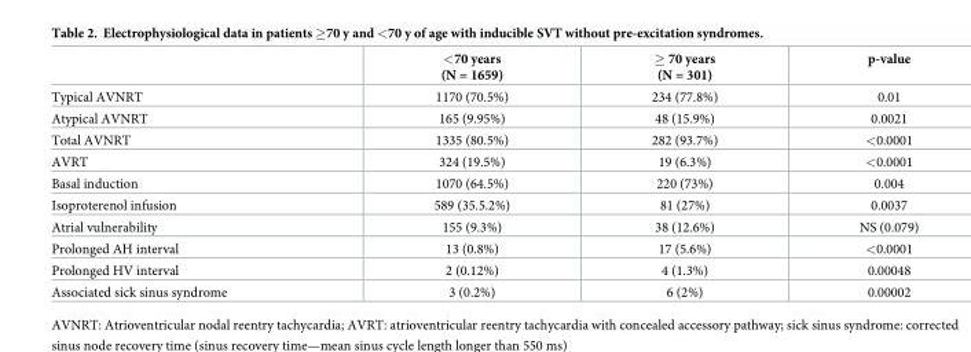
<table><thead><tr><td></td><td>&lt;70 years (N = 1659)</td><td>≥ 70 years (N = 301)</td><td>p-value</td></tr></thead><tbody><tr><td>Typical AVNRT</td><td>1170 (70.5%)</td><td>234 (77.8%)</td><td>0.01</td></tr><tr><td>Atypical AVNRT</td><td>165 (9.95%)</td><td>48 (15.9%)</td><td>0.0021</td></tr><tr><td>Total AVNRT</td><td>1335 (80.5%)</td><td>282 (93.7%)</td><td>&lt;0.0001</td></tr><tr><td>AVRT</td><td>324 (19.5%)</td><td>19 (6.3%)</td><td>&lt;0.0001</td></tr><tr><td>Basal induction</td><td>1070 (64.5%)</td><td>220 (73%)</td><td>0.004</td></tr><tr><td>Isoproterenol infusion</td><td>589 (35.5.2%)</td><td>81 (27%)</td><td>0.0037</td></tr><tr><td>Atrial vulnerability</td><td>155 (9.3%)</td><td>38 (12.6%)</td><td>NS (0.079)</td></tr><tr><td>Prolonged AH interval</td><td>13 (0.8%)</td><td>17 (5.6%)</td><td>&lt;0.0001</td></tr><tr><td>Prolonged HV interval</td><td>2 (0.12%)</td><td>4 (1.3%)</td><td>0.00048</td></tr><tr><td>Associated sick sinus syndrome</td><td>3 (0.2%)</td><td>6 (2%)</td><td>0.00002</td></tr></tbody></table>